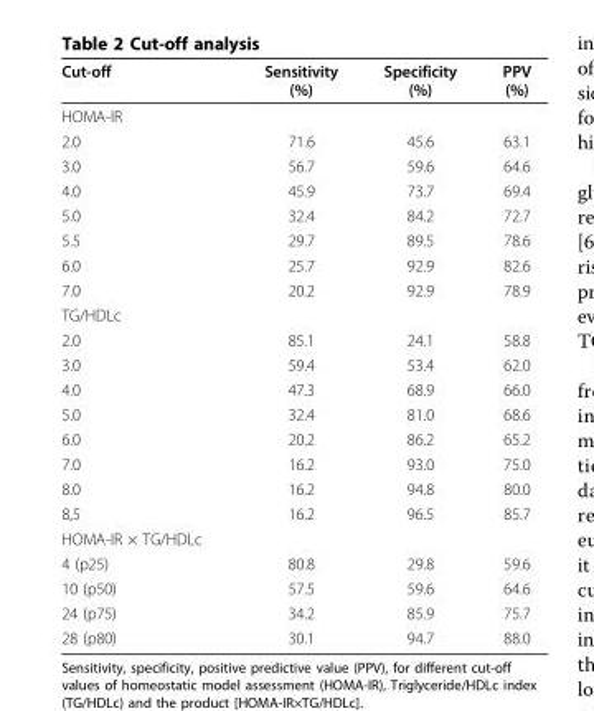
<table><thead><tr><td>Cut-off</td><td>Sensitivity (%)</td><td>Specificity (%)</td><td>PPV (%)</td></tr></thead><tbody><tr><td colspan="4">HOMA-IR</td></tr><tr><td>2.0</td><td>71.6</td><td>45.6</td><td>63.1</td></tr><tr><td>3.0</td><td>56.7</td><td>59.6</td><td>64.6</td></tr><tr><td>4.0</td><td>45.9</td><td>73.7</td><td>69.4</td></tr><tr><td>5.0</td><td>32.4</td><td>84.2</td><td>72.7</td></tr><tr><td>5.5</td><td>29.7</td><td>89.5</td><td>78.6</td></tr><tr><td>6.0</td><td>25.7</td><td>92.9</td><td>82.6</td></tr><tr><td>7.0</td><td>20.2</td><td>92.9</td><td>78.9</td></tr><tr><td colspan="4">TG/HDLc</td></tr><tr><td>2.0</td><td>85.1</td><td>24.1</td><td>58.8</td></tr><tr><td>3.0</td><td>59.4</td><td>53.4</td><td>62.0</td></tr><tr><td>4.0</td><td>47.3</td><td>68.9</td><td>66.0</td></tr><tr><td>5.0</td><td>32.4</td><td>81.0</td><td>68.6</td></tr><tr><td>6.0</td><td>20.2</td><td>86.2</td><td>65.2</td></tr><tr><td>7.0</td><td>16.2</td><td>93.0</td><td>75.0</td></tr><tr><td>8.0</td><td>16.2</td><td>94.8</td><td>80.0</td></tr><tr><td>8,5</td><td>16.2</td><td>96.5</td><td>85.7</td></tr><tr><td colspan="4">HOMA-IR × TG/HDLc</td></tr><tr><td>4 (p25)</td><td>80.8</td><td>29.8</td><td>59.6</td></tr><tr><td>10 (p50)</td><td>57.5</td><td>59.6</td><td>64.6</td></tr><tr><td>24 (p75)</td><td>34.2</td><td>85.9</td><td>75.7</td></tr><tr><td>28 (p80)</td><td>30.1</td><td>94.7</td><td>88.0</td></tr></tbody></table>